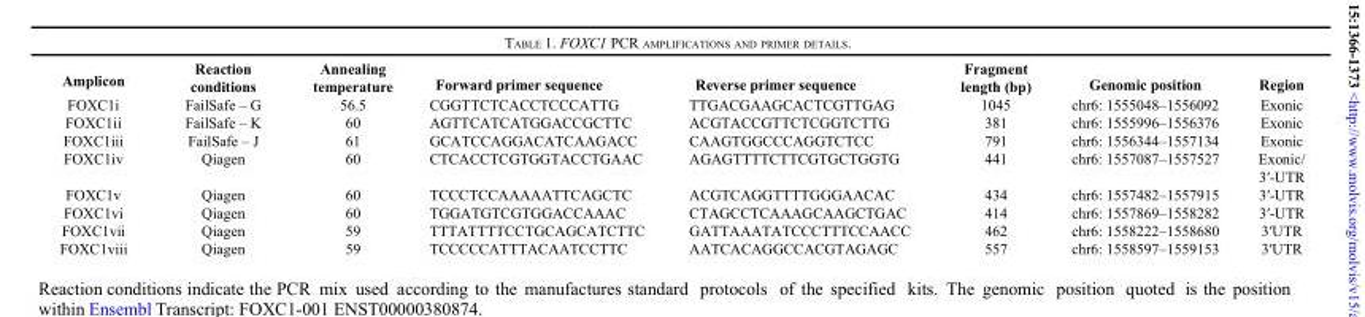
<table><thead><tr><td>Amplicon</td><td>Reaction conditions</td><td>Annealing temperature</td><td>Forward primer sequence</td><td>Reverse primer sequence</td><td>Fragment length (bp)</td><td>Genomic position</td><td>Region</td></tr></thead><tbody><tr><td>FOXC1i</td><td>FailSafe – G</td><td>56.5</td><td>CGGTTCTCACCTCCCATTG</td><td>TTGACGAAGCACTCGTTGAG</td><td>1045</td><td>chr6: 1555048–1556092</td><td>Exonic</td></tr><tr><td>FOXC1ii</td><td>FailSafe – K</td><td>60</td><td>AGTTCATCATGGACCGCTTC</td><td>ACGTACCGTTCTCGGTCTTG</td><td>381</td><td>chr6: 1555996–1556376</td><td>Exonic</td></tr><tr><td>FOXC1iii</td><td>FailSafe – J</td><td>61</td><td>GCATCCAGGACATCAAGACC</td><td>CAAGTGGCCCAGGTCTCC</td><td>791</td><td>chr6: 1556344–1557134</td><td>Exonic</td></tr><tr><td>FOXC1iv</td><td>Qiagen</td><td>60</td><td>CTCACCTCGTGGTACCTGAAC</td><td>AGAGTTTTCTTCGTGCTGGTG</td><td>441</td><td>chr6: 1557087–1557527</td><td>Exonic/ 3′-UTR</td></tr><tr><td>FOXC1v</td><td>Qiagen</td><td>60</td><td>TCCCTCCAAAAATTCAGCTC</td><td>ACGTCAGGTTTTGGGAACAC</td><td>434</td><td>chr6: 1557482–1557915</td><td>3′-UTR</td></tr><tr><td>FOXC1vi</td><td>Qiagen</td><td>60</td><td>TGGATGTCGTGGACCAAAC</td><td>CTAGCCTCAAAGCAAGCTGAC</td><td>414</td><td>chr6: 1557869–1558282</td><td>3′-UTR</td></tr><tr><td>FOXC1vii</td><td>Qiagen</td><td>59</td><td>TTTATTTTCCTGCAGCATCTTC</td><td>GATTAAATATCCCTTTCCAACC</td><td>462</td><td>chr6: 1558222–1558680</td><td>3′UTR</td></tr><tr><td>FOXC1viii</td><td>Qiagen</td><td>59</td><td>TCCCCCATTTACAATCCTTC</td><td>AATCACAGGCCACGTAGAGC</td><td>557</td><td>chr6: 1558597–1559153</td><td>3′UTR</td></tr></tbody></table>